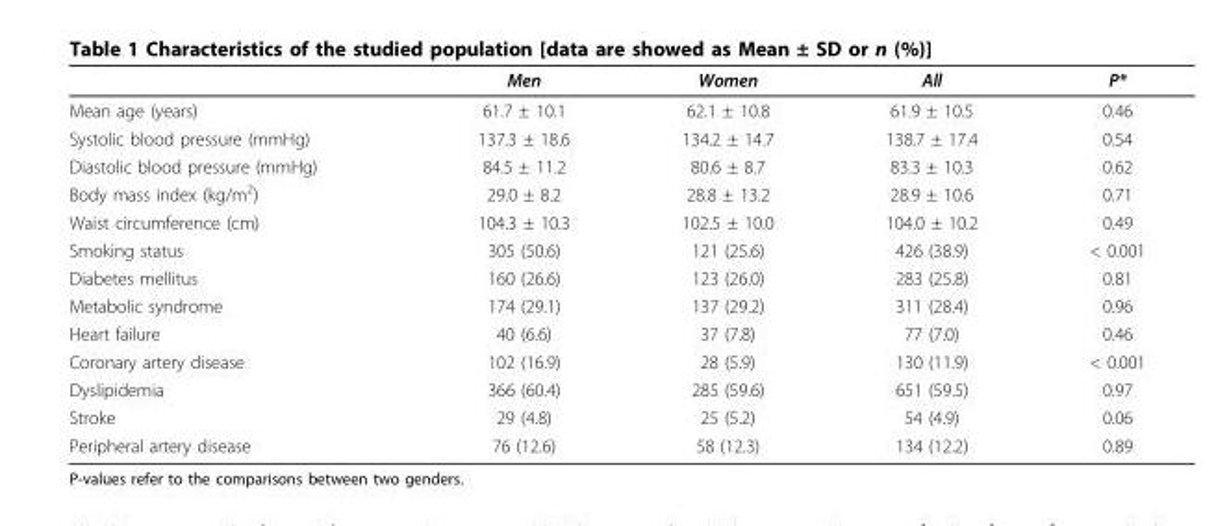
<table><thead><tr><td></td><td>Men</td><td>Women</td><td>All</td><td>P*</td></tr></thead><tbody><tr><td>Mean age (years)</td><td>61.7 ± 10.1</td><td>62.1 ± 10.8</td><td>61.9 ± 10.5</td><td>0.46</td></tr><tr><td>Systolic blood pressure (mmHg)</td><td>137.3 ± 18.6</td><td>134.2 ± 14.7</td><td>138.7 ± 17.4</td><td>0.54</td></tr><tr><td>Diastolic blood pressure (mmHg)</td><td>84.5 ± 11.2</td><td>80.6 ± 8.7</td><td>83.3 ± 10.3</td><td>0.62</td></tr><tr><td>Body mass index (kg/m<sup>2</sup>)</td><td>29.0 ± 8.2</td><td>28.8 ± 13.2</td><td>28.9 ± 10.6</td><td>0.71</td></tr><tr><td>Waist circumference (cm)</td><td>104.3 ± 10.3</td><td>102.5 ± 10.0</td><td>104.0 ± 10.2</td><td>0.49</td></tr><tr><td>Smoking status</td><td>305 (50.6)</td><td>121 (25.6)</td><td>426 (38.9)</td><td>&lt; 0.001</td></tr><tr><td>Diabetes mellitus</td><td>160 (26.6)</td><td>123 (26.0)</td><td>283 (25.8)</td><td>0.81</td></tr><tr><td>Metabolic syndrome</td><td>174 (29.1)</td><td>137 (29.2)</td><td>311 (28.4)</td><td>0.96</td></tr><tr><td>Heart failure</td><td>40 (6.6)</td><td>37 (7.8)</td><td>77 (7.0)</td><td>0.46</td></tr><tr><td>Coronary artery disease</td><td>102 (16.9)</td><td>28 (5.9)</td><td>130 (11.9)</td><td>&lt; 0.001</td></tr><tr><td>Dyslipidemia</td><td>366 (60.4)</td><td>285 (59.6)</td><td>651 (59.5)</td><td>0.97</td></tr><tr><td>Stroke</td><td>29 (4.8)</td><td>25 (5.2)</td><td>54 (4.9)</td><td>0.06</td></tr><tr><td>Peripheral artery disease</td><td>76 (12.6)</td><td>58 (12.3)</td><td>134 (12.2)</td><td>0.89</td></tr></tbody></table>